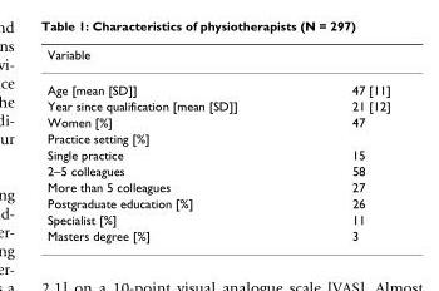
<table><thead><tr><td>Variable</td><td></td></tr></thead><tbody><tr><td>Age [mean [SD]]</td><td>47 [11]</td></tr><tr><td>Year since qualification [mean [SD]]</td><td>21 [12]</td></tr><tr><td>Women [%]</td><td>47</td></tr><tr><td colspan="2">Practice setting [%]</td></tr><tr><td>Single practice</td><td>15</td></tr><tr><td>2–5 colleagues</td><td>58</td></tr><tr><td>More than 5 colleagues</td><td>27</td></tr><tr><td>Postgraduate education [%]</td><td>26</td></tr><tr><td>Specialist [%]</td><td>11</td></tr><tr><td>Masters degree [%]</td><td>3</td></tr></tbody></table>